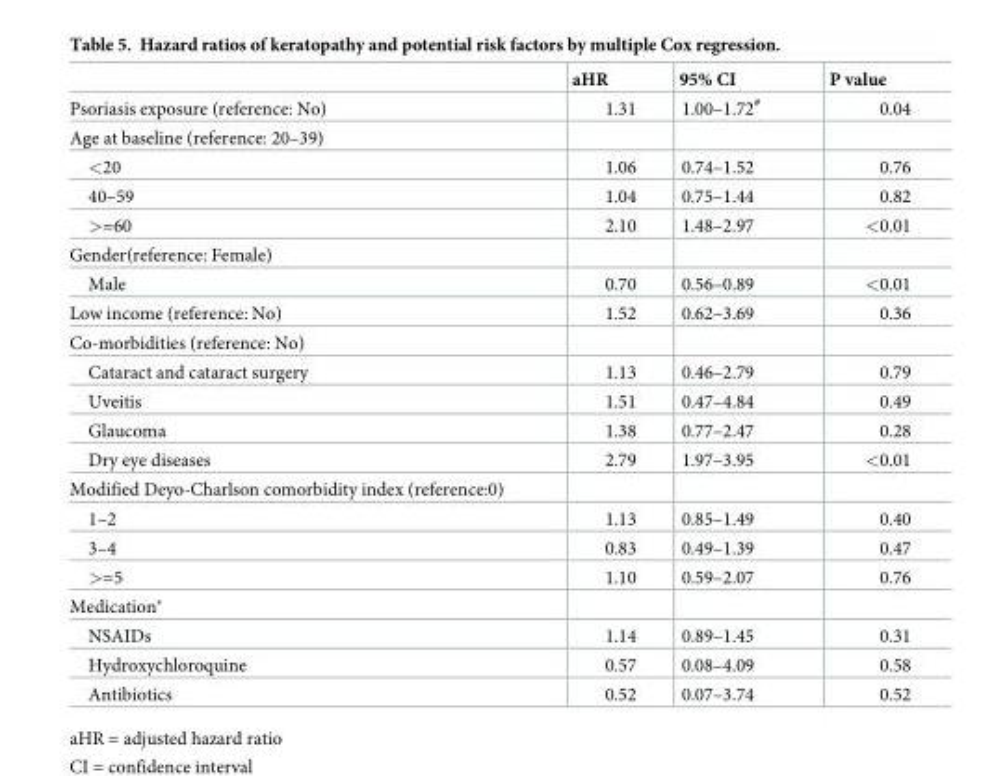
<table><thead><tr><td></td><td>aHR</td><td>95% CI</td><td>P value</td></tr></thead><tbody><tr><td>Psoriasis exposure (reference: No)</td><td>1.31</td><td>1.00–1.72<sup>#</sup></td><td>0.04</td></tr><tr><td colspan="4">Age at baseline (reference: 20–39)</td></tr><tr><td>&lt;20</td><td>1.06</td><td>0.74–1.52</td><td>0.76</td></tr><tr><td>40–59</td><td>1.04</td><td>0.75–1.44</td><td>0.82</td></tr><tr><td>&gt;=60</td><td>2.10</td><td>1.48–2.97</td><td>&lt;0.01</td></tr><tr><td colspan="4">Gender(reference: Female)</td></tr><tr><td>Male</td><td>0.70</td><td>0.56–0.89</td><td>&lt;0.01</td></tr><tr><td>Low income (reference: No)</td><td>1.52</td><td>0.62–3.69</td><td>0.36</td></tr><tr><td colspan="4">Co-morbidities (reference: No)</td></tr><tr><td>Cataract and cataract surgery</td><td>1.13</td><td>0.46–2.79</td><td>0.79</td></tr><tr><td>Uveitis</td><td>1.51</td><td>0.47–4.84</td><td>0.49</td></tr><tr><td>Glaucoma</td><td>1.38</td><td>0.77–2.47</td><td>0.28</td></tr><tr><td>Dry eye diseases</td><td>2.79</td><td>1.97–3.95</td><td>&lt;0.01</td></tr><tr><td colspan="4">Modified Deyo-Charlson comorbidity index (reference:0)</td></tr><tr><td>1–2</td><td>1.13</td><td>0.85–1.49</td><td>0.40</td></tr><tr><td>3–4</td><td>0.83</td><td>0.49–1.39</td><td>0.47</td></tr><tr><td>&gt;=5</td><td>1.10</td><td>0.59–2.07</td><td>0.76</td></tr><tr><td colspan="4">Medication*</td></tr><tr><td>NSAIDs</td><td>1.14</td><td>0.89–1.45</td><td>0.31</td></tr><tr><td>Hydroxychloroquine</td><td>0.57</td><td>0.08–4.09</td><td>0.58</td></tr><tr><td>Antibiotics</td><td>0.52</td><td>0.07–3.74</td><td>0.52</td></tr></tbody></table>